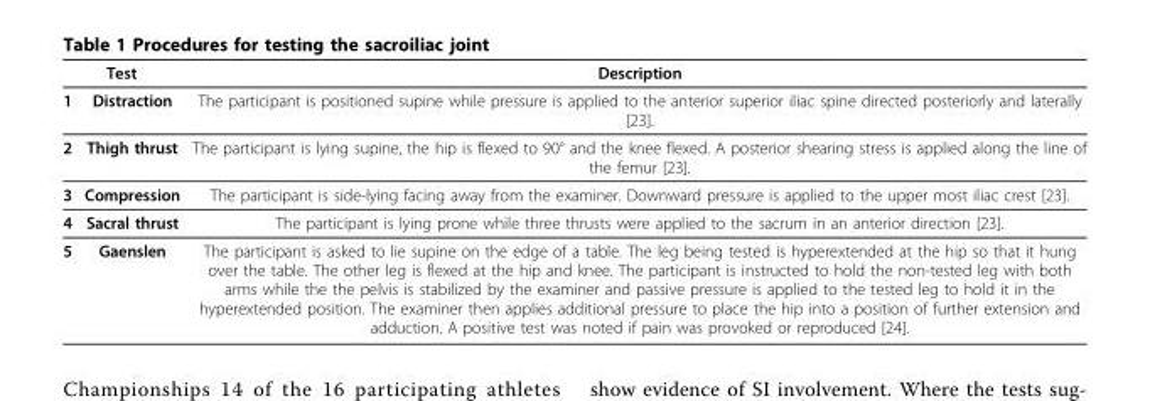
<table><thead><tr><td colspan="2">Test</td><td rowspan="2">Description The participant is positioned supine while pressure is applied to the anterior superior iliac spine directed posteriorly and laterally [23].</td></tr><tr><td>1</td><td>Distraction</td></tr></thead><tbody><tr><td>2</td><td>Thigh thrust</td><td>The participant is lying supine, the hip is flexed to 90° and the knee flexed. A posterior shearing stress is applied along the line of the femur [23].</td></tr><tr><td>3</td><td>Compression</td><td>The participant is side-lying facing away from the examiner. Downward pressure is applied to the upper most iliac crest [23].</td></tr><tr><td>4</td><td>Sacral thrust</td><td>The participant is lying prone while three thrusts were applied to the sacrum in an anterior direction [23].</td></tr><tr><td>5</td><td>Gaenslen</td><td>The participant is asked to lie supine on the edge of a table. The leg being tested is hyperextended at the hip so that it hung over the table. The other leg is flexed at the hip and knee. The participant is instructed to hold the non-tested leg with both arms while the the pelvis is stabilized by the examiner and passive pressure is applied to the tested leg to hold it in the hyperextended position. The examiner then applies additional pressure to place the hip into a position of further extension and adduction. A positive test was noted if pain was provoked or reproduced [24].</td></tr></tbody></table>